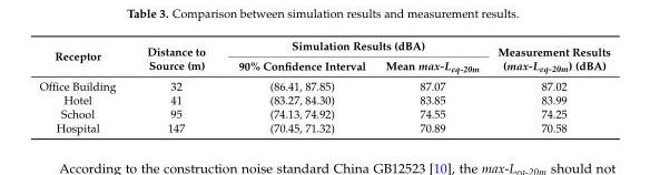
<table><thead><tr><td rowspan="2">Receptor</td><td rowspan="2">Distance to Source (m)</td><td colspan="2">Simulation Results (dBA)</td><td rowspan="2">Measurement Results (max-L<sub>eq-20m</sub>) (dBA)</td></tr><tr><td>90% Confidence Interval</td><td>Mean max-L<sub>eq-20m</sub></td></tr></thead><tbody><tr><td>Office Building</td><td>32</td><td>(86.41, 87.85)</td><td>87.07</td><td>87.02</td></tr><tr><td>Hotel</td><td>41</td><td>(83.27, 84.30)</td><td>83.85</td><td>83.99</td></tr><tr><td>School</td><td>95</td><td>(74.13, 74.92)</td><td>74.55</td><td>74.25</td></tr><tr><td>Hospital</td><td>147</td><td>(70.45, 71.32)</td><td>70.89</td><td>70.58</td></tr></tbody></table>